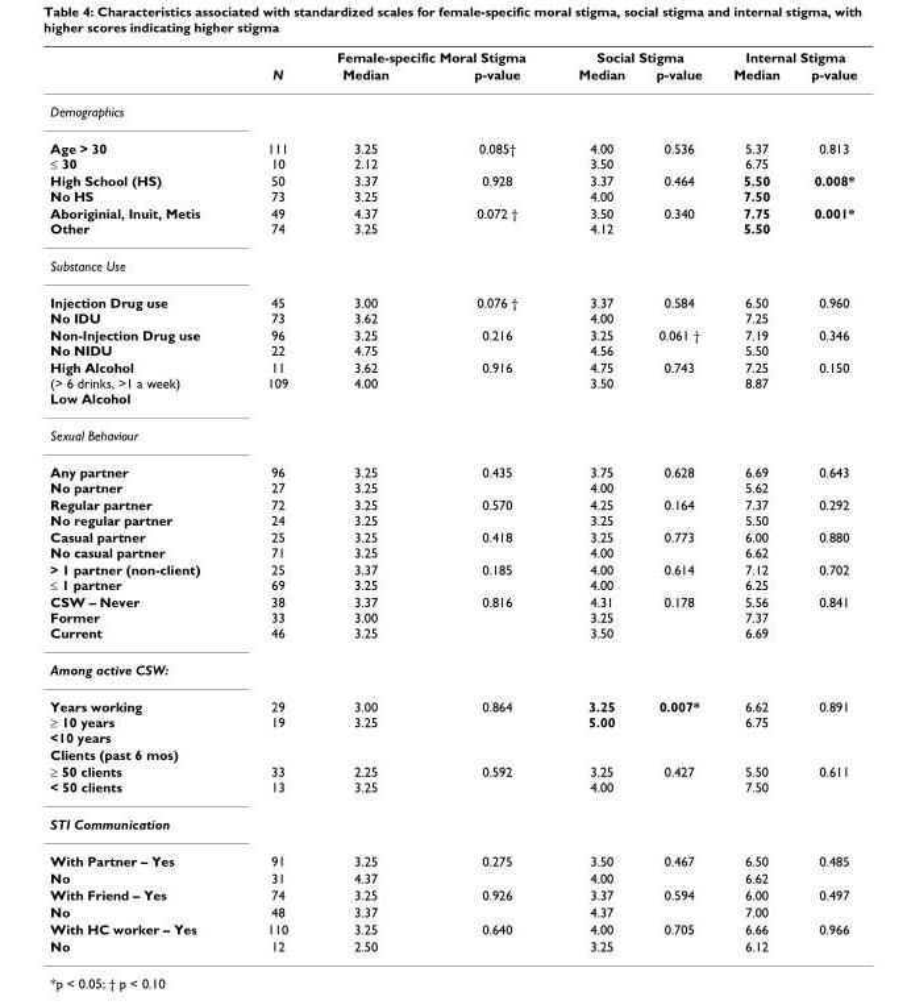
<table><thead><tr><td rowspan="2"></td><td rowspan="2">N</td><td colspan="2">Female-specific Moral Stigma</td><td colspan="2">Social Stigma</td><td colspan="2">Internal Stigma</td></tr><tr><td>Median</td><td>p-value</td><td>Median</td><td>p-value</td><td>Median</td><td>p-value</td></tr></thead><tbody><tr><td colspan="8">Demographics</td></tr><tr><td>Age &gt; 30 ≤ 30</td><td>111 10</td><td>3.25 2.12</td><td>0.085†</td><td>4.00 3.50</td><td>0.536</td><td>5.37 6.75</td><td>0.813</td></tr><tr><td>High School (HS) No HS</td><td>50 73</td><td>3.37 3.25</td><td>0.928</td><td>3.37 4.00</td><td>0.464</td><td>5.50 7.50</td><td>0.008*</td></tr><tr><td>Aboriginial, Inuit, Metis Other</td><td>49 74</td><td>4.37 3.25</td><td>0.072 †</td><td>3.50 4.12</td><td>0.340</td><td>7.75 5.50</td><td>0.001*</td></tr><tr><td colspan="8">Substance Use</td></tr><tr><td>Injection Drug use No IDU</td><td>45 73</td><td>3.00 3.62</td><td>0.076 †</td><td>3.37 4.00</td><td>0.584</td><td>6.50 7.25</td><td>0.960</td></tr><tr><td>Non-Injection Drug use No NIDU</td><td>96 22</td><td>3.25 4.75</td><td>0.216</td><td>3.25 4.56</td><td>0.061 †</td><td>7.19 5.50</td><td>0.346</td></tr><tr><td>High Alcohol (&gt; 6 drinks, &gt;1 a week) Low Alcohol</td><td>11 109</td><td>3.62 4.00</td><td>0.916</td><td>4.75 3.50</td><td>0.743</td><td>7.25 8.87</td><td>0.150</td></tr><tr><td colspan="8">Sexual Behaviour</td></tr><tr><td>Any partner No partner</td><td>96 27</td><td>3.25 3.25</td><td>0.435</td><td>3.75 4.00</td><td>0.628</td><td>6.69 5.62</td><td>0.643</td></tr><tr><td>Regular partner No regular partner</td><td>72 24</td><td>3.25 3.25</td><td>0.570</td><td>4.25 3.25</td><td>0.164</td><td>7.37 5.50</td><td>0.292</td></tr><tr><td>Casual partner No casual partner</td><td>25 71</td><td>3.25 3.25</td><td>0.418</td><td>3.25 4.00</td><td>0.773</td><td>6.00 6.62</td><td>0.880</td></tr><tr><td>&gt; 1 partner (non-client) ≤ 1 partner</td><td>25 69</td><td>3.37 3.25</td><td>0.185</td><td>4.00 4.00</td><td>0.614</td><td>7.12 6.25</td><td>0.702</td></tr><tr><td>CSW – Never Former Current</td><td>38 33 46</td><td>3.37 3.00 3.25</td><td>0.816</td><td>4.31 3.25 3.50</td><td>0.178</td><td>5.56 7.37 6.69</td><td>0.841</td></tr><tr><td colspan="8">Among active CSW:</td></tr><tr><td>Years working ≥ 10 years &lt;10 years</td><td>29 19</td><td>3.00 3.25</td><td>0.864</td><td>3.25 5.00</td><td>0.007*</td><td>6.62 6.75</td><td>0.891</td></tr><tr><td colspan="8">Clients (past 6 mos)</td></tr><tr><td>≥ 50 clients &lt; 50 clients</td><td>33 13</td><td>2.25 3.25</td><td>0.592</td><td>3.25 4.00</td><td>0.427</td><td>5.50 7.50</td><td>0.611</td></tr><tr><td colspan="8">STI Communication</td></tr><tr><td>With Partner – Yes</td><td>91</td><td>3.25</td><td>0.275</td><td>3.50</td><td>0.467</td><td>6.50</td><td>0.485</td></tr><tr><td>No</td><td>31</td><td>4.37</td><td></td><td>4.00</td><td></td><td>6.62</td><td></td></tr><tr><td>With Friend – Yes</td><td>74</td><td>3.25</td><td>0.926</td><td>3.37</td><td>0.594</td><td>6.00</td><td>0.497</td></tr><tr><td>No</td><td>48</td><td>3.37</td><td></td><td>4.37</td><td></td><td>7.00</td><td></td></tr><tr><td>With HC worker – Yes</td><td>110</td><td>3.25</td><td>0.640</td><td>4.00</td><td>0.705</td><td>6.66</td><td>0.966</td></tr><tr><td>No</td><td>12</td><td>2.50</td><td></td><td>3.25</td><td></td><td>6.12</td><td></td></tr></tbody></table>